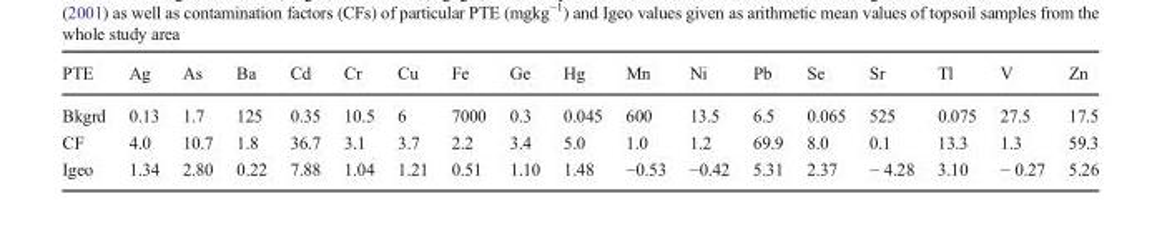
<table><thead><tr><td>PTE</td><td>Ag</td><td>As</td><td>Ba</td><td>Cd</td><td>Cr</td><td>Cu</td><td>Fe</td><td>Ge</td><td>Hg</td><td>Mn</td><td>Ni</td><td>Pb</td><td>Se</td><td>Sr</td><td>Tl</td><td>V</td><td>Zn</td></tr></thead><tbody><tr><td>Bkgrd</td><td>0.13</td><td>1.7</td><td>125</td><td>0.35</td><td>10.5</td><td>6</td><td>7000</td><td>0.3</td><td>0.045</td><td>600</td><td>13.5</td><td>6.5</td><td>0.065</td><td>525</td><td>0.075</td><td>27.5</td><td>17.5</td></tr><tr><td>CF</td><td>4.0</td><td>10.7</td><td>1.8</td><td>36.7</td><td>3.1</td><td>3.7</td><td>2.2</td><td>3.4</td><td>5.0</td><td>1.0</td><td>1.2</td><td>69.9</td><td>8.0</td><td>0.1</td><td>13.3</td><td>1.3</td><td>59.3</td></tr><tr><td>Igeo</td><td>1.34</td><td>2.80</td><td>0.22</td><td>7.88</td><td>1.04</td><td>1.21</td><td>0.51</td><td>1.10</td><td>1.48</td><td>−0.53</td><td>−0.42</td><td>5.31</td><td>2.37</td><td>− 4.28</td><td>3.10</td><td>− 0.27</td><td>5.26</td></tr></tbody></table>